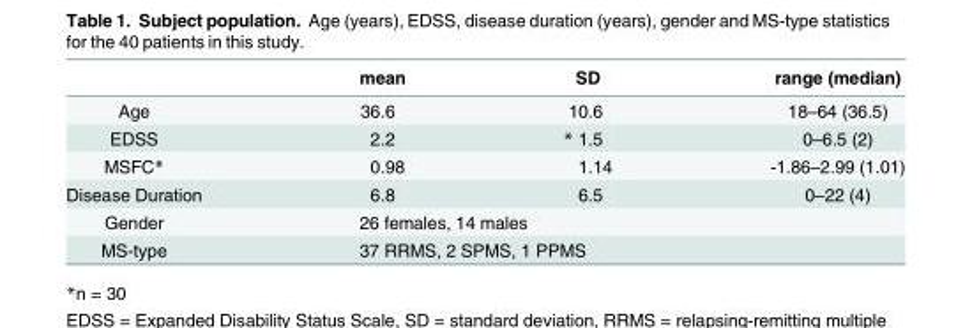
<table><thead><tr><td></td><td>mean</td><td>SD</td><td>range (median)</td></tr></thead><tbody><tr><td>Age</td><td>36.6</td><td>10.6</td><td>18–64 (36.5)</td></tr><tr><td>EDSS</td><td>2.2</td><td>* 1.5</td><td>0–6.5 (2)</td></tr><tr><td>MSFC*</td><td>0.98</td><td>1.14</td><td>-1.86–2.99 (1.01)</td></tr><tr><td>Disease Duration</td><td>6.8</td><td>6.5</td><td>0–22 (4)</td></tr><tr><td>Gender</td><td colspan="3">26 females, 14 males</td></tr><tr><td>MS-type</td><td colspan="3">37 RRMS, 2 SPMS, 1 PPMS</td></tr></tbody></table>